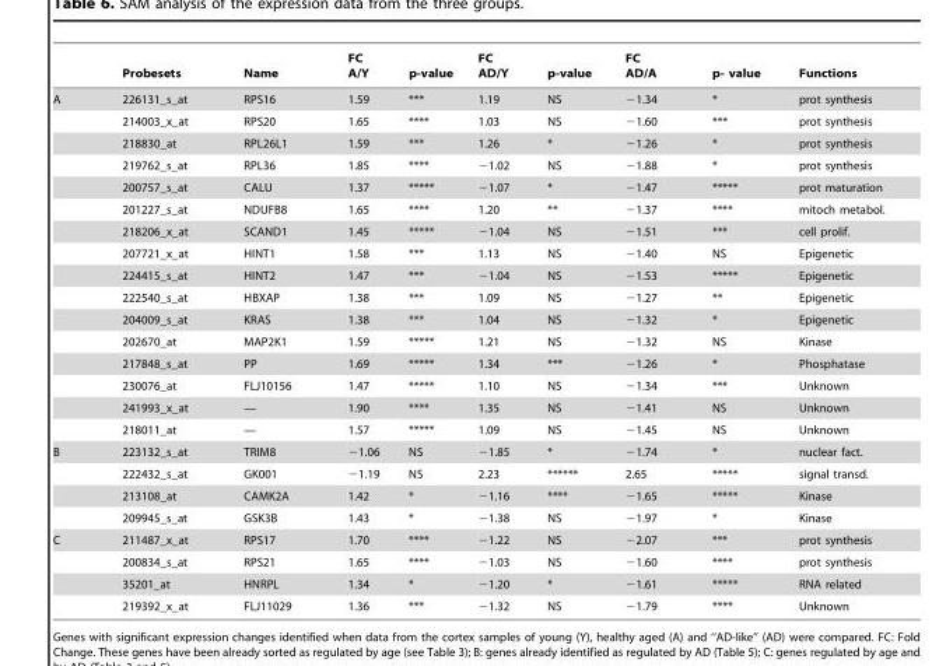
<table><thead><tr><td></td><td>Probesets</td><td>Name</td><td>FC A/Y</td><td>p-value</td><td>FC AD/Y</td><td>p-value</td><td>FC AD/A</td><td>p- value</td><td>Functions</td></tr></thead><tbody><tr><td rowspan="16">A</td><td>226131_s_at</td><td>RPS16</td><td>1.59</td><td>***</td><td>1.19</td><td>NS</td><td>−1.34</td><td>*</td><td>prot synthesis</td></tr><tr><td>214003_x_at</td><td>RPS20</td><td>1.65</td><td>****</td><td>1.03</td><td>NS</td><td>−1.60</td><td>***</td><td>prot synthesis</td></tr><tr><td>218830_at</td><td>RPL26L1</td><td>1.59</td><td>***</td><td>1.26</td><td>*</td><td>−1.26</td><td>*</td><td>prot synthesis</td></tr><tr><td>219762_s_at</td><td>RPL36</td><td>1.85</td><td>****</td><td>−1.02</td><td>NS</td><td>−1.88</td><td>*</td><td>prot synthesis</td></tr><tr><td>200757_s_at</td><td>CALU</td><td>1.37</td><td>*****</td><td>−1.07</td><td>*</td><td>−1.47</td><td>*****</td><td>prot maturation</td></tr><tr><td>201227_s_at</td><td>NDUFB8</td><td>1.65</td><td>****</td><td>1.20</td><td>**</td><td>−1.37</td><td>****</td><td>mitoch metabol.</td></tr><tr><td>218206_x_at</td><td>SCAND1</td><td>1.45</td><td>*****</td><td>−1.04</td><td>NS</td><td>−1.51</td><td>***</td><td>cell prolif.</td></tr><tr><td>207721_x_at</td><td>HINT1</td><td>1.58</td><td>***</td><td>1.13</td><td>NS</td><td>−1.40</td><td>NS</td><td>Epigenetic</td></tr><tr><td>224415_s_at</td><td>HINT2</td><td>1.47</td><td>***</td><td>−1.04</td><td>NS</td><td>−1.53</td><td>*****</td><td>Epigenetic</td></tr><tr><td>222540_s_at</td><td>HBXAP</td><td>1.38</td><td>***</td><td>1.09</td><td>NS</td><td>−1.27</td><td>**</td><td>Epigenetic</td></tr><tr><td>204009_s_at</td><td>KRAS</td><td>1.38</td><td>***</td><td>1.04</td><td>NS</td><td>−1.32</td><td>*</td><td>Epigenetic</td></tr><tr><td>202670_at</td><td>MAP2K1</td><td>1.59</td><td>*****</td><td>1.21</td><td>NS</td><td>−1.32</td><td>NS</td><td>Kinase</td></tr><tr><td>217848_s_at</td><td>PP</td><td>1.69</td><td>*****</td><td>1.34</td><td>***</td><td>−1.26</td><td>*</td><td>Phosphatase</td></tr><tr><td>230076_at</td><td>FLJ10156</td><td>1.47</td><td>*****</td><td>1.10</td><td>NS</td><td>−1.34</td><td>***</td><td>Unknown</td></tr><tr><td>241993_x_at</td><td>—</td><td>1.90</td><td>****</td><td>1.35</td><td>NS</td><td>−1.41</td><td>NS</td><td>Unknown</td></tr><tr><td>218011_at</td><td>—</td><td>1.57</td><td>*****</td><td>1.09</td><td>NS</td><td>−1.45</td><td>NS</td><td>Unknown</td></tr><tr><td rowspan="4">B</td><td>223132_s_at</td><td>TRIM8</td><td>−1.06</td><td>NS</td><td>−1.85</td><td>*</td><td>−1.74</td><td>*</td><td>nuclear fact.</td></tr><tr><td>222432_s_at</td><td>GK001</td><td>−1.19</td><td>NS</td><td>2.23</td><td>******</td><td>2.65</td><td>*****</td><td>signal transd.</td></tr><tr><td>213108_at</td><td>CAMK2A</td><td>1.42</td><td>*</td><td>−1.16</td><td>****</td><td>−1.65</td><td>*****</td><td>Kinase</td></tr><tr><td>209945_s_at</td><td>GSK3B</td><td>1.43</td><td>*</td><td>−1.38</td><td>NS</td><td>−1.97</td><td>*</td><td>Kinase</td></tr><tr><td rowspan="4">C</td><td>211487_x_at</td><td>RPS17</td><td>1.70</td><td>****</td><td>−1.22</td><td>NS</td><td>−2.07</td><td>***</td><td>prot synthesis</td></tr><tr><td>200834_s_at</td><td>RPS21</td><td>1.65</td><td>****</td><td>−1.03</td><td>NS</td><td>−1.60</td><td>****</td><td>prot synthesis</td></tr><tr><td>35201_at</td><td>HNRPL</td><td>1.34</td><td>*</td><td>−1.20</td><td>*</td><td>−1.61</td><td>*****</td><td>RNA related</td></tr><tr><td>219392_x_at</td><td>FLJ11029</td><td>1.36</td><td>***</td><td>−1.32</td><td>NS</td><td>−1.79</td><td>****</td><td>Unknown</td></tr></tbody></table>